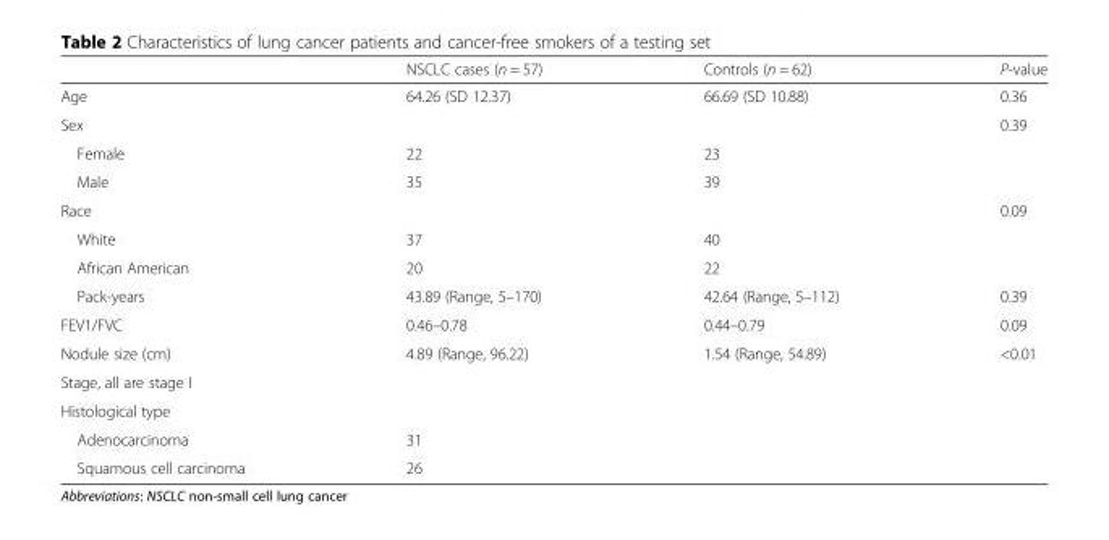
<table><thead><tr><td></td><td>NSCLC cases (n = 57)</td><td>Controls (n = 62)</td><td>P-value</td></tr></thead><tbody><tr><td>Age</td><td>64.26 (SD 12.37)</td><td>66.69 (SD 10.88)</td><td>0.36</td></tr><tr><td>Sex</td><td></td><td></td><td>0.39</td></tr><tr><td>Female</td><td>22</td><td>23</td><td></td></tr><tr><td>Male</td><td>35</td><td>39</td><td></td></tr><tr><td>Race</td><td></td><td></td><td>0.09</td></tr><tr><td>White</td><td>37</td><td>40</td><td></td></tr><tr><td>African American</td><td>20</td><td>22</td><td></td></tr><tr><td>Pack-years</td><td>43.89 (Range, 5–170)</td><td>42.64 (Range, 5–112)</td><td>0.39</td></tr><tr><td>FEV1/FVC</td><td>0.46–0.78</td><td>0.44–0.79</td><td>0.09</td></tr><tr><td>Nodule size (cm)</td><td>4.89 (Range, 96.22)</td><td>1.54 (Range, 54.89)</td><td>&lt;0.01</td></tr><tr><td colspan="4">Stage, all are stage I</td></tr><tr><td colspan="4">Histological type</td></tr><tr><td>Adenocarcinoma</td><td>31</td><td></td><td></td></tr><tr><td>Squamous cell carcinoma</td><td>26</td><td></td><td></td></tr></tbody></table>